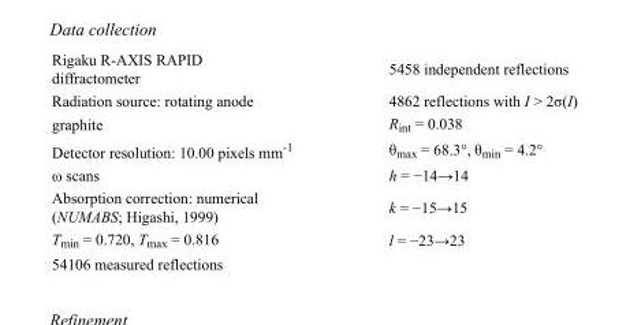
<table><tbody><tr><td>Rigaku R-AXIS RAPID diffractometer</td><td>5458 independent reflections</td></tr><tr><td>Radiation source: rotating anode</td><td>4862 reflections with I &gt; 2σ(I)</td></tr><tr><td>graphite</td><td>R<sub>int</sub> = 0.038</td></tr><tr><td>Detector resolution: 10.00 pixels mm<sup>-1</sup></td><td>θ<sub>max</sub> = 68.3°, θ<sub>min</sub> = 4.2°</td></tr><tr><td>ω scans</td><td>h = −14→14</td></tr><tr><td>Absorption correction: numerical (NUMABS; Higashi, 1999)</td><td>k = −15→15</td></tr><tr><td>T<sub>min</sub> = 0.720, T<sub>max</sub> = 0.816</td><td>l = −23→23</td></tr><tr><td>54106 measured reflections</td><td></td></tr></tbody></table>